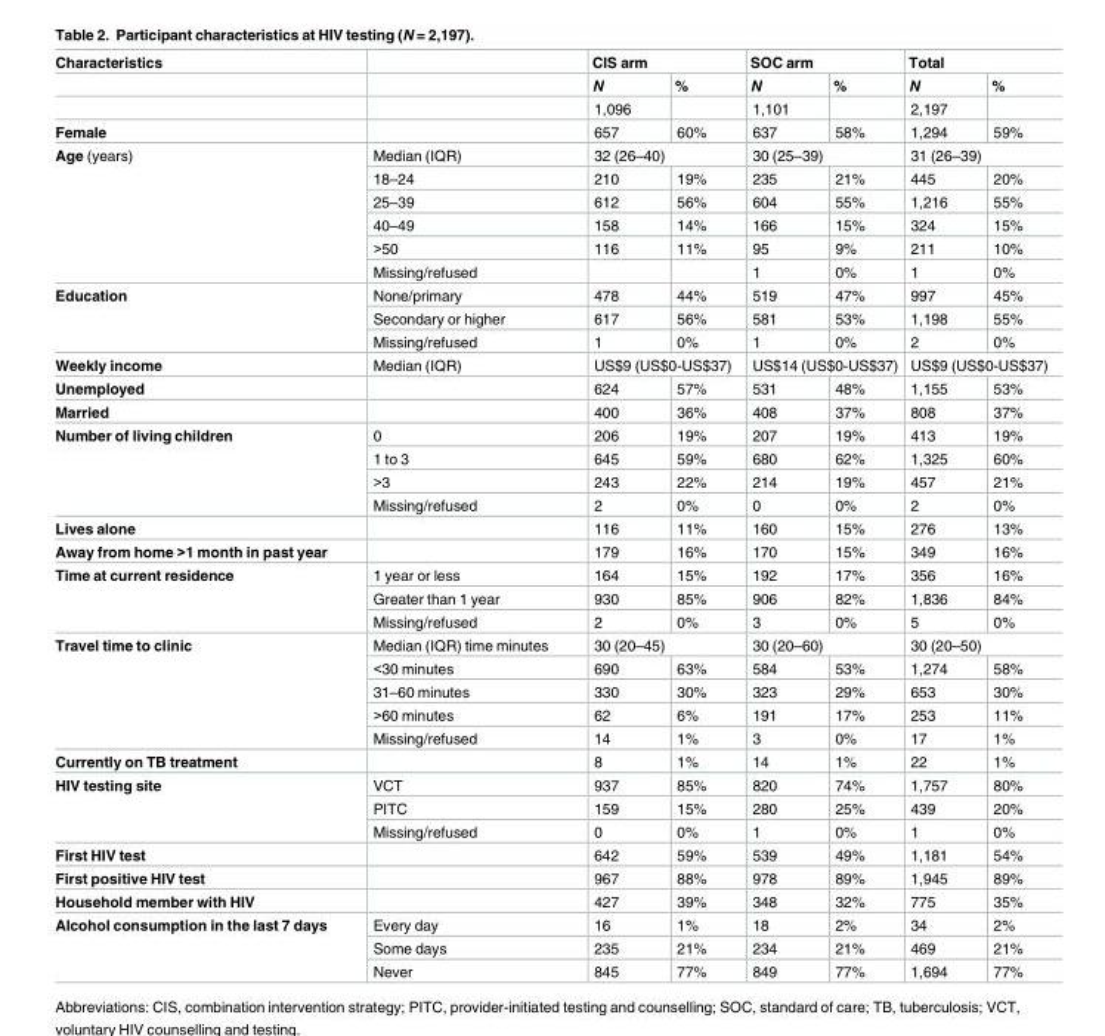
<table><thead><tr><td rowspan="2">Characteristics</td><td rowspan="2"></td><td colspan="2">CIS arm</td><td colspan="2">SOC arm</td><td colspan="2">Total</td></tr><tr><td>N</td><td>%</td><td>N</td><td>%</td><td>N</td><td>%</td></tr></thead><tbody><tr><td></td><td></td><td>1,096</td><td></td><td>1,101</td><td></td><td>2,197</td><td></td></tr><tr><td>Female</td><td></td><td>657</td><td>60%</td><td>637</td><td>58%</td><td>1,294</td><td>59%</td></tr><tr><td rowspan="6">Age (years)</td><td>Median (IQR)</td><td colspan="2">32 (26–40)</td><td colspan="2">30 (25–39)</td><td colspan="2">31 (26–39)</td></tr><tr><td>18–24</td><td>210</td><td>19%</td><td>235</td><td>21%</td><td>445</td><td>20%</td></tr><tr><td>25–39</td><td>612</td><td>56%</td><td>604</td><td>55%</td><td>1,216</td><td>55%</td></tr><tr><td>40–49</td><td>158</td><td>14%</td><td>166</td><td>15%</td><td>324</td><td>15%</td></tr><tr><td>&gt;50</td><td>116</td><td>11%</td><td>95</td><td>9%</td><td>211</td><td>10%</td></tr><tr><td>Missing/refused</td><td></td><td></td><td>1</td><td>0%</td><td>1</td><td>0%</td></tr><tr><td rowspan="3">Education</td><td>None/primary</td><td>478</td><td>44%</td><td>519</td><td>47%</td><td>997</td><td>45%</td></tr><tr><td>Secondary or higher</td><td>617</td><td>56%</td><td>581</td><td>53%</td><td>1,198</td><td>55%</td></tr><tr><td>Missing/refused</td><td>1</td><td>0%</td><td>1</td><td>0%</td><td>2</td><td>0%</td></tr><tr><td>Weekly income</td><td>Median (IQR)</td><td colspan="2">US$9 (US$0-US$37)</td><td colspan="2">US$14 (US$0-US$37)</td><td colspan="2">US$9 (US$0-US$37)</td></tr><tr><td>Unemployed</td><td></td><td>624</td><td>57%</td><td>531</td><td>48%</td><td>1,155</td><td>53%</td></tr><tr><td>Married</td><td></td><td>400</td><td>36%</td><td>408</td><td>37%</td><td>808</td><td>37%</td></tr><tr><td rowspan="4">Number of living children</td><td>0</td><td>206</td><td>19%</td><td>207</td><td>19%</td><td>413</td><td>19%</td></tr><tr><td>1 to 3</td><td>645</td><td>59%</td><td>680</td><td>62%</td><td>1,325</td><td>60%</td></tr><tr><td>&gt;3</td><td>243</td><td>22%</td><td>214</td><td>19%</td><td>457</td><td>21%</td></tr><tr><td>Missing/refused</td><td>2</td><td>0%</td><td>0</td><td>0%</td><td>2</td><td>0%</td></tr><tr><td>Lives alone</td><td></td><td>116</td><td>11%</td><td>160</td><td>15%</td><td>276</td><td>13%</td></tr><tr><td>Away from home &gt;1 month in past year</td><td></td><td>179</td><td>16%</td><td>170</td><td>15%</td><td>349</td><td>16%</td></tr><tr><td rowspan="3">Time at current residence</td><td>1 year or less</td><td>164</td><td>15%</td><td>192</td><td>17%</td><td>356</td><td>16%</td></tr><tr><td>Greater than 1 year</td><td>930</td><td>85%</td><td>906</td><td>82%</td><td>1,836</td><td>84%</td></tr><tr><td>Missing/refused</td><td>2</td><td>0%</td><td>3</td><td>0%</td><td>5</td><td>0%</td></tr><tr><td rowspan="5">Travel time to clinic</td><td>Median (IQR) time minutes</td><td colspan="2">30 (20–45)</td><td colspan="2">30 (20–60)</td><td colspan="2">30 (20–50)</td></tr><tr><td>&lt;30 minutes</td><td>690</td><td>63%</td><td>584</td><td>53%</td><td>1,274</td><td>58%</td></tr><tr><td>31–60 minutes</td><td>330</td><td>30%</td><td>323</td><td>29%</td><td>653</td><td>30%</td></tr><tr><td>&gt;60 minutes</td><td>62</td><td>6%</td><td>191</td><td>17%</td><td>253</td><td>11%</td></tr><tr><td>Missing/refused</td><td>14</td><td>1%</td><td>3</td><td>0%</td><td>17</td><td>1%</td></tr><tr><td>Currently on TB treatment</td><td></td><td>8</td><td>1%</td><td>14</td><td>1%</td><td>22</td><td>1%</td></tr><tr><td rowspan="3">HIV testing site</td><td>VCT</td><td>937</td><td>85%</td><td>820</td><td>74%</td><td>1,757</td><td>80%</td></tr><tr><td>PITC</td><td>159</td><td>15%</td><td>280</td><td>25%</td><td>439</td><td>20%</td></tr><tr><td>Missing/refused</td><td>0</td><td>0%</td><td>1</td><td>0%</td><td>1</td><td>0%</td></tr><tr><td>First HIV test</td><td></td><td>642</td><td>59%</td><td>539</td><td>49%</td><td>1,181</td><td>54%</td></tr><tr><td>First positive HIV test</td><td></td><td>967</td><td>88%</td><td>978</td><td>89%</td><td>1,945</td><td>89%</td></tr><tr><td>Household member with HIV</td><td></td><td>427</td><td>39%</td><td>348</td><td>32%</td><td>775</td><td>35%</td></tr><tr><td rowspan="3">Alcohol consumption in the last 7 days</td><td>Every day</td><td>16</td><td>1%</td><td>18</td><td>2%</td><td>34</td><td>2%</td></tr><tr><td>Some days</td><td>235</td><td>21%</td><td>234</td><td>21%</td><td>469</td><td>21%</td></tr><tr><td>Never</td><td>845</td><td>77%</td><td>849</td><td>77%</td><td>1,694</td><td>77%</td></tr></tbody></table>